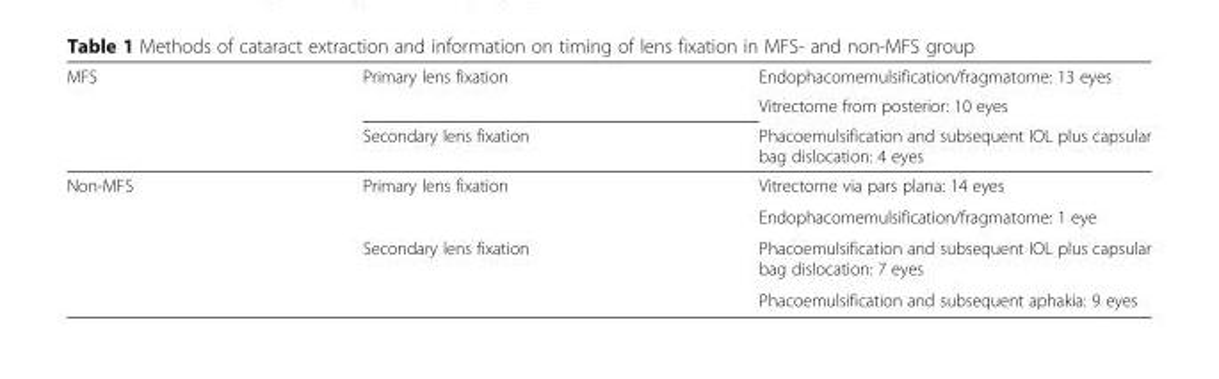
<table><thead><tr><td rowspan="3">MFS</td><td rowspan="3">Primary lens fixation Secondary lens fixation</td><td rowspan="3">Endophacomemulsification/fragmatome: 13 eyes Vitrectome from posterior: 10 eyes Phacoemulsification and subsequent IOL plus capsular bag dislocation: 4 eyes</td></tr><tr></tr><tr></tr></thead><tbody><tr><td rowspan="4">Non-MFS</td><td rowspan="2">Primary lens fixation</td><td>Vitrectome via pars plana: 14 eyes</td></tr><tr><td>Endophacomemulsification/fragmatome: 1 eye</td></tr><tr><td rowspan="2">Secondary lens fixation</td><td>Phacoemulsification and subsequent IOL plus capsular bag dislocation: 7 eyes</td></tr><tr><td>Phacoemulsification and subsequent aphakia: 9 eyes</td></tr></tbody></table>